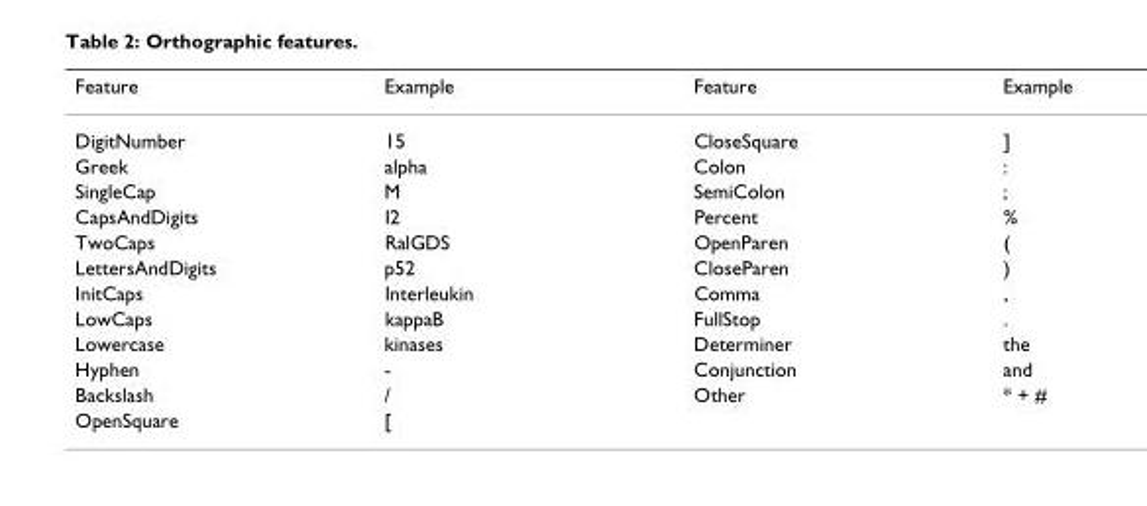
<table><thead><tr><td>Feature</td><td>Example</td><td>Feature</td><td>Example</td></tr></thead><tbody><tr><td>DigitNumber</td><td>15</td><td>CloseSquare</td><td>]</td></tr><tr><td>Greek</td><td>alpha</td><td>Colon</td><td>:</td></tr><tr><td>SingleCap</td><td>M</td><td>SemiColon</td><td>;</td></tr><tr><td>CapsAndDigits</td><td>I2</td><td>Percent</td><td>%</td></tr><tr><td>TwoCaps</td><td>RalGDS</td><td>OpenParen</td><td>(</td></tr><tr><td>LettersAndDigits</td><td>p52</td><td>CloseParen</td><td>)</td></tr><tr><td>InitCaps</td><td>Interleukin</td><td>Comma</td><td>,</td></tr><tr><td>LowCaps</td><td>kappaB</td><td>FullStop</td><td>.</td></tr><tr><td>Lowercase</td><td>kinases</td><td>Determiner</td><td>the</td></tr><tr><td>Hyphen</td><td>-</td><td>Conjunction</td><td>and</td></tr><tr><td>Backslash</td><td>/</td><td>Other</td><td>* + #</td></tr><tr><td>OpenSquare</td><td>[</td><td></td><td></td></tr></tbody></table>